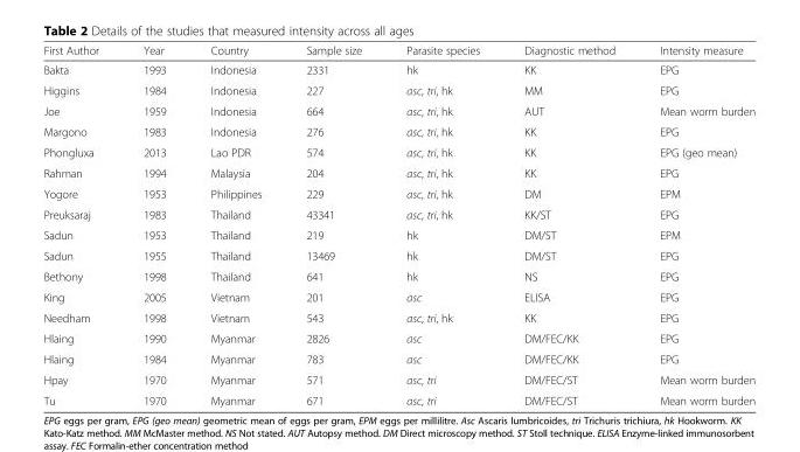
<table><thead><tr><td>First Author</td><td>Year</td><td>Country</td><td>Sample size</td><td>Parasite species</td><td>Diagnostic method</td><td>Intensity measure</td></tr></thead><tbody><tr><td>Bakta</td><td>1993</td><td>Indonesia</td><td>2331</td><td>hk</td><td>KK</td><td>EPG</td></tr><tr><td>Higgins</td><td>1984</td><td>Indonesia</td><td>227</td><td>asc, tri, hk</td><td>MM</td><td>EPG</td></tr><tr><td>Joe</td><td>1959</td><td>Indonesia</td><td>664</td><td>asc, tri, hk</td><td>AUT</td><td>Mean worm burden</td></tr><tr><td>Margono</td><td>1983</td><td>Indonesia</td><td>276</td><td>asc, tri, hk</td><td>KK</td><td>EPG</td></tr><tr><td>Phongluxa</td><td>2013</td><td>Lao PDR</td><td>574</td><td>asc, tri, hk</td><td>KK</td><td>EPG (geo mean)</td></tr><tr><td>Rahman</td><td>1994</td><td>Malaysia</td><td>204</td><td>asc, tri, hk</td><td>KK</td><td>EPG</td></tr><tr><td>Yogore</td><td>1953</td><td>Philippines</td><td>229</td><td>asc, tri, hk</td><td>DM</td><td>EPM</td></tr><tr><td>Preuksaraj</td><td>1983</td><td>Thailand</td><td>43341</td><td>asc, tri, hk</td><td>KK/ST</td><td>EPG</td></tr><tr><td>Sadun</td><td>1953</td><td>Thailand</td><td>219</td><td>hk</td><td>DM/ST</td><td>EPM</td></tr><tr><td>Sadun</td><td>1955</td><td>Thailand</td><td>13469</td><td>hk</td><td>DM/ST</td><td>EPG</td></tr><tr><td>Bethony</td><td>1998</td><td>Thailand</td><td>641</td><td>hk</td><td>NS</td><td>EPG</td></tr><tr><td>King</td><td>2005</td><td>Vietnam</td><td>201</td><td>asc</td><td>ELISA</td><td>EPG</td></tr><tr><td>Needham</td><td>1998</td><td>Vietnam</td><td>543</td><td>asc, tri, hk</td><td>KK</td><td>EPG</td></tr><tr><td>Hlaing</td><td>1990</td><td>Myanmar</td><td>2826</td><td>asc</td><td>DM/FEC/KK</td><td>EPG</td></tr><tr><td>Hlaing</td><td>1984</td><td>Myanmar</td><td>783</td><td>asc</td><td>DM/FEC/KK</td><td>EPG</td></tr><tr><td>Hpay</td><td>1970</td><td>Myanmar</td><td>571</td><td>asc, tri</td><td>DM/FEC/ST</td><td>Mean worm burden</td></tr><tr><td>Tu</td><td>1970</td><td>Myanmar</td><td>671</td><td>asc, tri</td><td>DM/FEC/ST</td><td>Mean worm burden</td></tr></tbody></table>